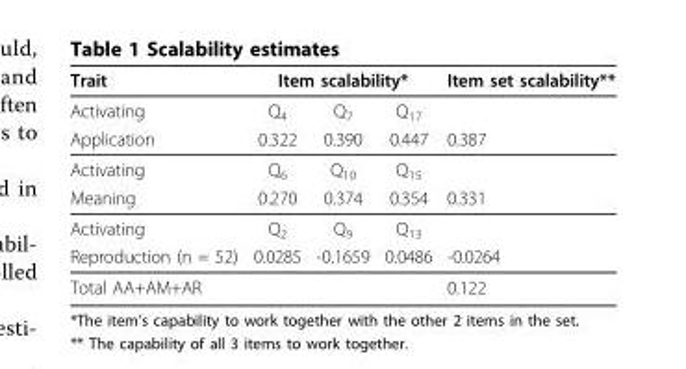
<table><thead><tr><td rowspan="2">Trait Activating</td><td colspan="3">Item scalability*</td><td rowspan="2">Item set scalability**</td></tr><tr><td>Q<sub>4</sub></td><td>Q<sub>7</sub></td><td>Q<sub>17</sub></td></tr></thead><tbody><tr><td>Application</td><td>0.322</td><td>0.390</td><td>0.447</td><td>0.387</td></tr><tr><td>Activating</td><td>Q<sub>6</sub></td><td>Q<sub>10</sub></td><td>Q<sub>15</sub></td><td></td></tr><tr><td>Meaning</td><td>0.270</td><td>0.374</td><td>0.354</td><td>0.331</td></tr><tr><td>Activating</td><td>Q<sub>2</sub></td><td>Q<sub>9</sub></td><td>Q<sub>13</sub></td><td></td></tr><tr><td>Reproduction (n = 52)</td><td>0.0285</td><td>-0.1659</td><td>0.0486</td><td>-0.0264</td></tr><tr><td>Total AA+AM+AR</td><td></td><td></td><td></td><td>0.122</td></tr></tbody></table>